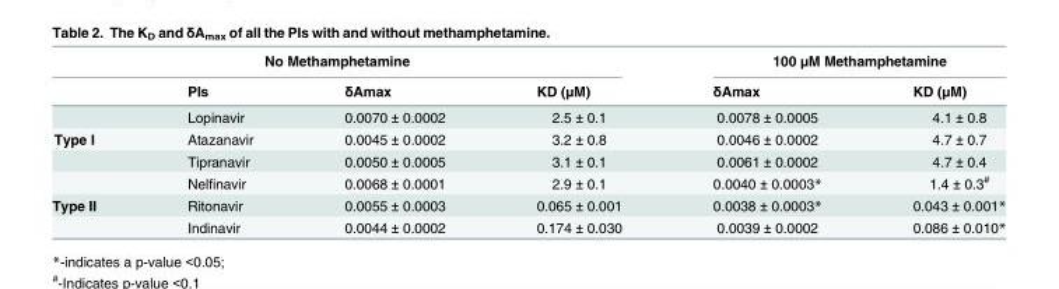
<table><thead><tr><td colspan="4">No Methamphetamine</td><td colspan="2">100 μM Methamphetamine</td></tr><tr><td></td><td>PIs</td><td>δAmax</td><td>KD (μM)</td><td>δAmax</td><td>KD (μM)</td></tr></thead><tbody><tr><td></td><td>Lopinavir</td><td>0.0070 ± 0.0002</td><td>2.5 ± 0.1</td><td>0.0078 ± 0.0005</td><td>4.1 ± 0.8</td></tr><tr><td rowspan="3">Type I</td><td>Atazanavir</td><td>0.0045 ± 0.0002</td><td>3.2 ± 0.8</td><td>0.0046 ± 0.0002</td><td>4.7 ± 0.7</td></tr><tr><td>Tipranavir</td><td>0.0050 ± 0.0005</td><td>3.1 ± 0.1</td><td>0.0061 ± 0.0002</td><td>4.7 ± 0.4</td></tr><tr><td>Nelfinavir</td><td>0.0068 ± 0.0001</td><td>2.9 ± 0.1</td><td>0.0040 ± 0.0003*</td><td>1.4 ± 0.3<sup>#</sup></td></tr><tr><td rowspan="2">Type II</td><td>Ritonavir</td><td>0.0055 ± 0.0003</td><td>0.065 ± 0.001</td><td>0.0038 ± 0.0003*</td><td>0.043 ± 0.001*</td></tr><tr><td>Indinavir</td><td>0.0044 ± 0.0002</td><td>0.174 ± 0.030</td><td>0.0039 ± 0.0002</td><td>0.086 ± 0.010*</td></tr></tbody></table>